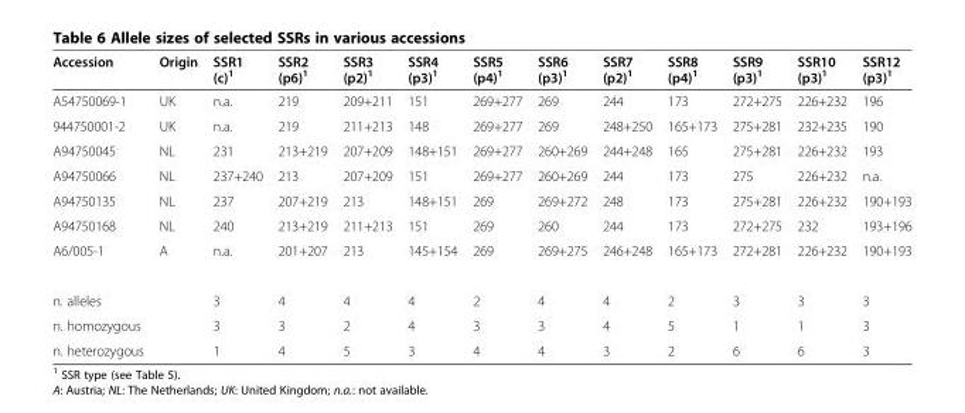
<table><thead><tr><td>Accession</td><td>Origin</td><td>SSR1 (c)<sup>1</sup></td><td>SSR2 (p6)<sup>1</sup></td><td>SSR3 (p2)<sup>1</sup></td><td>SSR4 (p3)<sup>1</sup></td><td>SSR5 (p4)<sup>1</sup></td><td>SSR6 (p3)<sup>1</sup></td><td>SSR7 (p2)<sup>1</sup></td><td>SSR8 (p4)<sup>1</sup></td><td>SSR9 (p3)<sup>1</sup></td><td>SSR10 (p3)<sup>1</sup></td><td>SSR12 (p3)<sup>1</sup></td></tr></thead><tbody><tr><td>A54750069-1</td><td>UK</td><td>n.a.</td><td>219</td><td>209+211</td><td>151</td><td>269+277</td><td>269</td><td>244</td><td>173</td><td>272+275</td><td>226+232</td><td>196</td></tr><tr><td>944750001-2</td><td>UK</td><td>n.a.</td><td>219</td><td>211+213</td><td>148</td><td>269+277</td><td>269</td><td>248+250</td><td>165+173</td><td>275+281</td><td>232+235</td><td>190</td></tr><tr><td>A94750045</td><td>NL</td><td>231</td><td>213+219</td><td>207+209</td><td>148+151</td><td>269+277</td><td>260+269</td><td>244+248</td><td>165</td><td>275+281</td><td>226+232</td><td>193</td></tr><tr><td>A94750066</td><td>NL</td><td>237+240</td><td>213</td><td>207+209</td><td>151</td><td>269+277</td><td>260+269</td><td>244</td><td>173</td><td>275</td><td>226+232</td><td>n.a.</td></tr><tr><td>A94750135</td><td>NL</td><td>237</td><td>207+219</td><td>213</td><td>148+151</td><td>269</td><td>269+272</td><td>248</td><td>173</td><td>275+281</td><td>226+232</td><td>190+193</td></tr><tr><td>A94750168</td><td>NL</td><td>240</td><td>213+219</td><td>211+213</td><td>151</td><td>269</td><td>260</td><td>244</td><td>173</td><td>272+275</td><td>232</td><td>193+196</td></tr><tr><td>A6/005-1</td><td>A</td><td>n.a.</td><td>201+207</td><td>213</td><td>145+154</td><td>269</td><td>269+275</td><td>246+248</td><td>165+173</td><td>272+281</td><td>226+232</td><td>190+193</td></tr><tr><td>n. alleles</td><td></td><td>3</td><td>4</td><td>4</td><td>4</td><td>2</td><td>4</td><td>4</td><td>2</td><td>3</td><td>3</td><td>3</td></tr><tr><td>n. homozygous</td><td></td><td>3</td><td>3</td><td>2</td><td>4</td><td>3</td><td>3</td><td>4</td><td>5</td><td>1</td><td>1</td><td>3</td></tr><tr><td>n. heterozygous</td><td></td><td>1</td><td>4</td><td>5</td><td>3</td><td>4</td><td>4</td><td>3</td><td>2</td><td>6</td><td>6</td><td>3</td></tr></tbody></table>